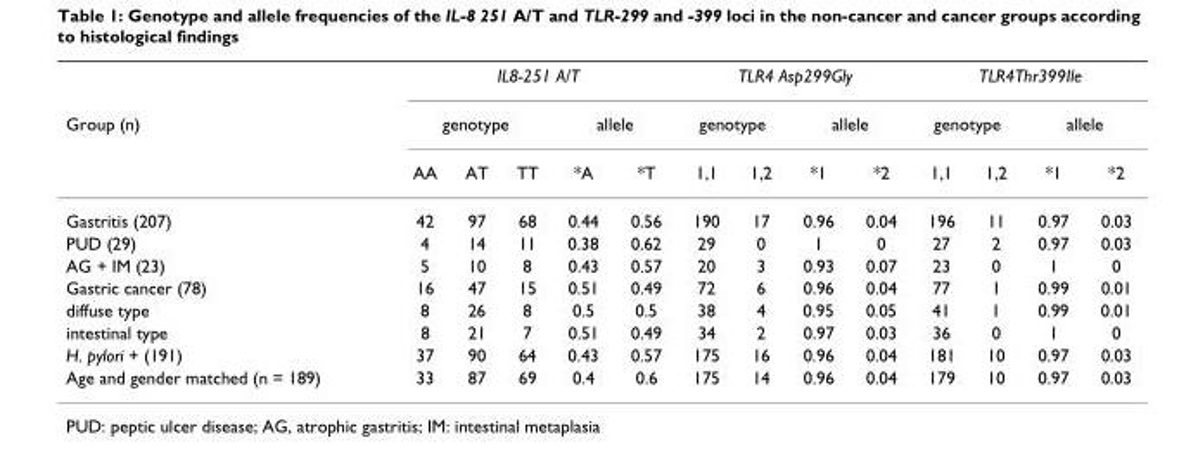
<table><thead><tr><td rowspan="3">Group (n)</td><td colspan="5">IL8-251 A/T</td><td colspan="4">TLR4 Asp299Gly</td><td colspan="4">TLR4Thr399Ile</td></tr><tr><td colspan="3">genotype</td><td colspan="2">allele</td><td colspan="2">genotype</td><td colspan="2">allele</td><td colspan="2">genotype</td><td colspan="2">allele</td></tr><tr><td>AA</td><td>AT</td><td>TT</td><td>*A</td><td>*T</td><td>1,1</td><td>1,2</td><td>*1</td><td>*2</td><td>1,1</td><td>1,2</td><td>*1</td><td>*2</td></tr></thead><tbody><tr><td>Gastritis (207)</td><td>42</td><td>97</td><td>68</td><td>0.44</td><td>0.56</td><td>190</td><td>17</td><td>0.96</td><td>0.04</td><td>196</td><td>11</td><td>0.97</td><td>0.03</td></tr><tr><td>PUD (29)</td><td>4</td><td>14</td><td>11</td><td>0.38</td><td>0.62</td><td>29</td><td>0</td><td>1</td><td>0</td><td>27</td><td>2</td><td>0.97</td><td>0.03</td></tr><tr><td>AG + IM (23)</td><td>5</td><td>10</td><td>8</td><td>0.43</td><td>0.57</td><td>20</td><td>3</td><td>0.93</td><td>0.07</td><td>23</td><td>0</td><td>1</td><td>0</td></tr><tr><td>Gastric cancer (78)</td><td>16</td><td>47</td><td>15</td><td>0.51</td><td>0.49</td><td>72</td><td>6</td><td>0.96</td><td>0.04</td><td>77</td><td>1</td><td>0.99</td><td>0.01</td></tr><tr><td>diffuse type</td><td>8</td><td>26</td><td>8</td><td>0.5</td><td>0.5</td><td>38</td><td>4</td><td>0.95</td><td>0.05</td><td>41</td><td>1</td><td>0.99</td><td>0.01</td></tr><tr><td>intestinal type</td><td>8</td><td>21</td><td>7</td><td>0.51</td><td>0.49</td><td>34</td><td>2</td><td>0.97</td><td>0.03</td><td>36</td><td>0</td><td>1</td><td>0</td></tr><tr><td>H. pylori + (191)</td><td>37</td><td>90</td><td>64</td><td>0.43</td><td>0.57</td><td>175</td><td>16</td><td>0.96</td><td>0.04</td><td>181</td><td>10</td><td>0.97</td><td>0.03</td></tr><tr><td>Age and gender matched (n = 189)</td><td>33</td><td>87</td><td>69</td><td>0.4</td><td>0.6</td><td>175</td><td>14</td><td>0.96</td><td>0.04</td><td>179</td><td>10</td><td>0.97</td><td>0.03</td></tr></tbody></table>